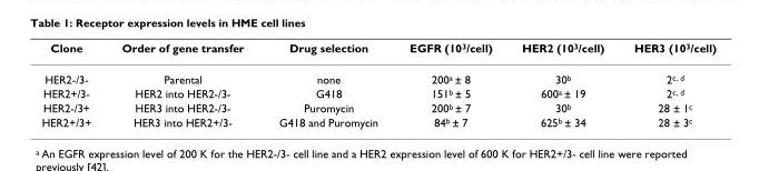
<table><thead><tr><td>Clone</td><td>Order of gene transfer</td><td>Drug selection</td><td>EGFR (10<sup>3</sup>/cell)</td><td>HER2 (10<sup>3</sup>/cell)</td><td>HER3 (10<sup>3</sup>/cell)</td></tr></thead><tbody><tr><td>HER2-/3-</td><td>Parental</td><td>none</td><td>200<sup>a</sup> ± 8</td><td>30<sup>b</sup></td><td>2<sup>c, d</sup></td></tr><tr><td>HER2+/3-</td><td>HER2 into HER2-/3-</td><td>G418</td><td>151<sup>b</sup> ± 5</td><td>600<sup>a</sup> ± 19</td><td>2<sup>c, d</sup></td></tr><tr><td>HER2-/3+</td><td>HER3 into HER2-/3-</td><td>Puromycin</td><td>200<sup>b</sup> ± 7</td><td>30<sup>b</sup></td><td>28 ± 1<sup>c</sup></td></tr><tr><td>HER2+/3+</td><td>HER3 into HER2+/3-</td><td>G418 and Puromycin</td><td>84<sup>b</sup> ± 7</td><td>625<sup>b</sup> ± 34</td><td>28 ± 3<sup>c</sup></td></tr></tbody></table>